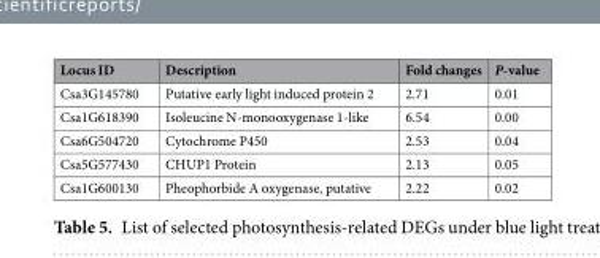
<table><thead><tr><td>Locus ID</td><td>Description</td><td>Fold changes</td><td>P-value</td></tr></thead><tbody><tr><td>Csa3G145780</td><td>Putative early light induced protein 2</td><td>2.71</td><td>0.01</td></tr><tr><td>Csa1G618390</td><td>Isoleucine N-monooxygenase 1-like</td><td>6.54</td><td>0.00</td></tr><tr><td>Csa6G504720</td><td>Cytochrome P450</td><td>2.53</td><td>0.04</td></tr><tr><td>Csa5G577430</td><td>CHUP1 Protein</td><td>2.13</td><td>0.05</td></tr><tr><td>Csa1G600130</td><td>Pheophorbide A oxygenase, putative</td><td>2.22</td><td>0.02</td></tr></tbody></table>